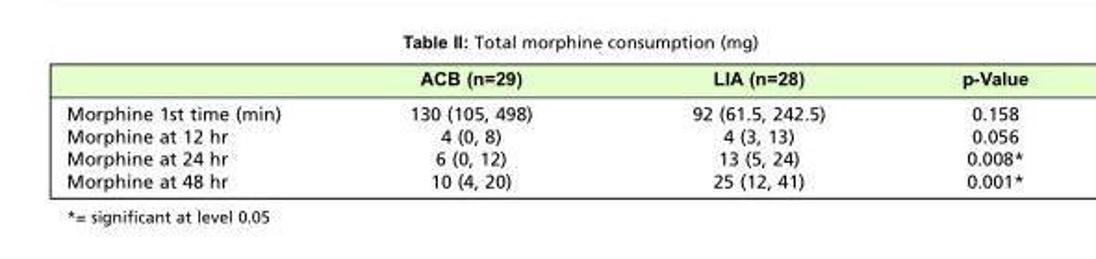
<table><thead><tr><td></td><td>ACB (n=29)</td><td>LIA (n=28)</td><td>p-Value</td></tr></thead><tbody><tr><td>Morphine 1st time (min)</td><td>130 (105, 498)</td><td>92 (61.5, 242.5)</td><td>0.158</td></tr><tr><td>Morphine at 12 hr</td><td>4 (0, 8)</td><td>4 (3, 13)</td><td>0.056</td></tr><tr><td>Morphine at 24 hr</td><td>6 (0, 12)</td><td>13 (5, 24)</td><td>0.008*</td></tr><tr><td>Morphine at 48 hr</td><td>10 (4, 20)</td><td>25 (12, 41)</td><td>0.001*</td></tr></tbody></table>